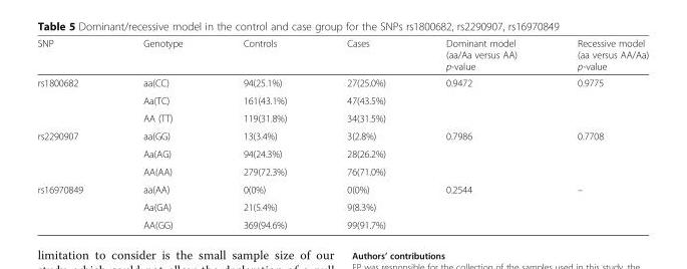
<table><thead><tr><td>SNP</td><td>Genotype</td><td>Controls</td><td>Cases</td><td>Dominant model (aa/Aa versus AA) p-value</td><td>Recessive model (aa versus AA/Aa) p-value</td></tr></thead><tbody><tr><td rowspan="3">rs1800682</td><td>aa(CC)</td><td>94(25.1%)</td><td>27(25.0%)</td><td rowspan="3">0.9472</td><td rowspan="3">0.9775</td></tr><tr><td>Aa(TC)</td><td>161(43.1%)</td><td>47(43.5%)</td></tr><tr><td>AA (TT)</td><td>119(31.8%)</td><td>34(31.5%)</td></tr><tr><td rowspan="3">rs2290907</td><td>aa(GG)</td><td>13(3.4%)</td><td>3(2.8%)</td><td rowspan="3">0.7986</td><td rowspan="3">0.7708</td></tr><tr><td>Aa(AG)</td><td>94(24.3%)</td><td>28(26.2%)</td></tr><tr><td>AA(AA)</td><td>279(72.3%)</td><td>76(71.0%)</td></tr><tr><td rowspan="3">rs16970849</td><td>aa(AA)</td><td>0(0%)</td><td>0(0%)</td><td rowspan="3">0.2544</td><td rowspan="3">–</td></tr><tr><td>Aa(GA)</td><td>21(5.4%)</td><td>9(8.3%)</td></tr><tr><td>AA(GG)</td><td>369(94.6%)</td><td>99(91.7%)</td></tr></tbody></table>